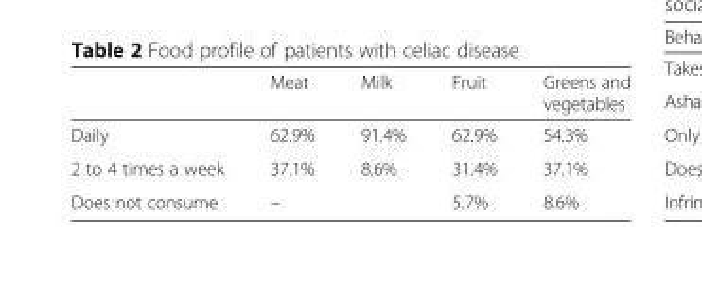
<table><thead><tr><td></td><td>Meat</td><td>Milk</td><td>Fruit</td><td>Greens and vegetables</td></tr></thead><tbody><tr><td>Daily</td><td>62.9%</td><td>91.4%</td><td>62.9%</td><td>54.3%</td></tr><tr><td>2 to 4 times a week</td><td>37.1%</td><td>8.6%</td><td>31.4%</td><td>37.1%</td></tr><tr><td>Does not consume</td><td>–</td><td></td><td>5.7%</td><td>8.6%</td></tr></tbody></table>